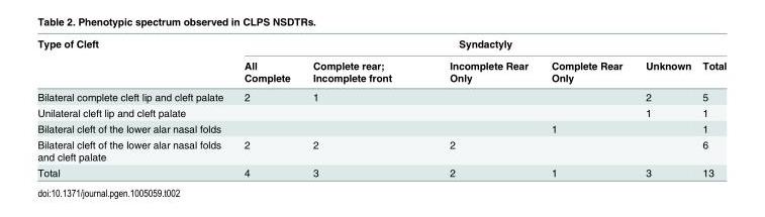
<table><thead><tr><td rowspan="2">Type of Cleft</td><td colspan="6">Syndactyly</td></tr><tr><td>All Complete</td><td>Complete rear; Incomplete front</td><td>Incomplete Rear Only</td><td>Complete Rear Only</td><td>Unknown</td><td>Total</td></tr></thead><tbody><tr><td>Bilateral complete cleft lip and cleft palate</td><td>2</td><td>1</td><td></td><td></td><td>2</td><td>5</td></tr><tr><td>Unilateral cleft lip and cleft palate</td><td></td><td></td><td></td><td></td><td>1</td><td>1</td></tr><tr><td>Bilateral cleft of the lower alar nasal folds</td><td></td><td></td><td></td><td>1</td><td></td><td>1</td></tr><tr><td>Bilateral cleft of the lower alar nasal folds and cleft palate</td><td>2</td><td>2</td><td>2</td><td></td><td></td><td>6</td></tr><tr><td>Total</td><td>4</td><td>3</td><td>2</td><td>1</td><td>3</td><td>13</td></tr></tbody></table>